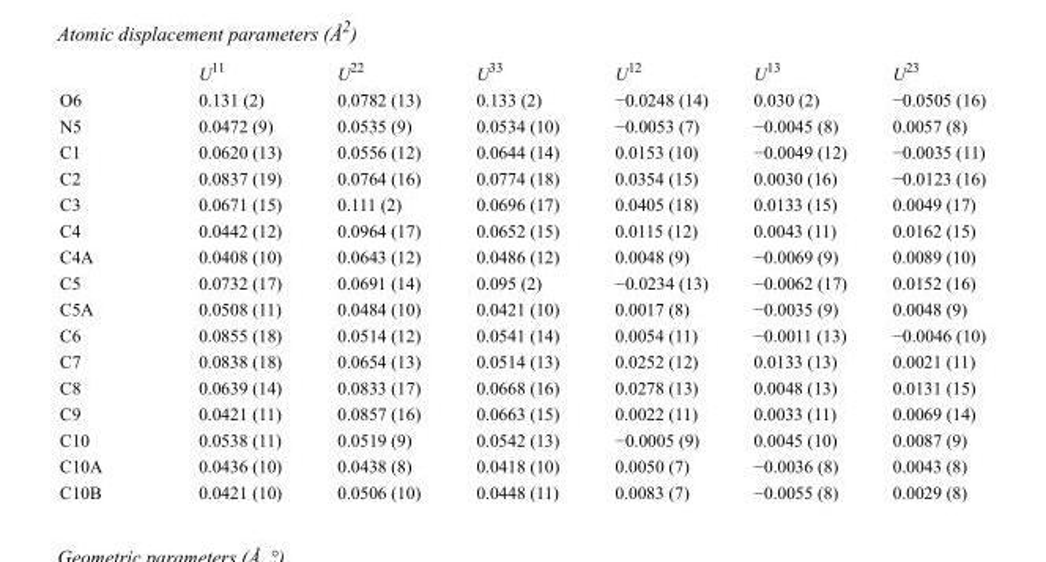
<table><thead><tr><td></td><td>U<sup>11</sup></td><td>U<sup>22</sup></td><td>U<sup>33</sup></td><td>U<sup>12</sup></td><td>U<sup>13</sup></td><td>U<sup>23</sup></td></tr></thead><tbody><tr><td>O6</td><td>0.131 (2)</td><td>0.0782 (13)</td><td>0.133 (2)</td><td>−0.0248 (14)</td><td>0.030 (2)</td><td>−0.0505 (16)</td></tr><tr><td>N5</td><td>0.0472 (9)</td><td>0.0535 (9)</td><td>0.0534 (10)</td><td>−0.0053 (7)</td><td>−0.0045 (8)</td><td>0.0057 (8)</td></tr><tr><td>C1</td><td>0.0620 (13)</td><td>0.0556 (12)</td><td>0.0644 (14)</td><td>0.0153 (10)</td><td>−0.0049 (12)</td><td>−0.0035 (11)</td></tr><tr><td>C2</td><td>0.0837 (19)</td><td>0.0764 (16)</td><td>0.0774 (18)</td><td>0.0354 (15)</td><td>0.0030 (16)</td><td>−0.0123 (16)</td></tr><tr><td>C3</td><td>0.0671 (15)</td><td>0.111 (2)</td><td>0.0696 (17)</td><td>0.0405 (18)</td><td>0.0133 (15)</td><td>0.0049 (17)</td></tr><tr><td>C4</td><td>0.0442 (12)</td><td>0.0964 (17)</td><td>0.0652 (15)</td><td>0.0115 (12)</td><td>0.0043 (11)</td><td>0.0162 (15)</td></tr><tr><td>C4A</td><td>0.0408 (10)</td><td>0.0643 (12)</td><td>0.0486 (12)</td><td>0.0048 (9)</td><td>−0.0069 (9)</td><td>0.0089 (10)</td></tr><tr><td>C5</td><td>0.0732 (17)</td><td>0.0691 (14)</td><td>0.095 (2)</td><td>−0.0234 (13)</td><td>−0.0062 (17)</td><td>0.0152 (16)</td></tr><tr><td>C5A</td><td>0.0508 (11)</td><td>0.0484 (10)</td><td>0.0421 (10)</td><td>0.0017 (8)</td><td>−0.0035 (9)</td><td>0.0048 (9)</td></tr><tr><td>C6</td><td>0.0855 (18)</td><td>0.0514 (12)</td><td>0.0541 (14)</td><td>0.0054 (11)</td><td>−0.0011 (13)</td><td>−0.0046 (10)</td></tr><tr><td>C7</td><td>0.0838 (18)</td><td>0.0654 (13)</td><td>0.0514 (13)</td><td>0.0252 (12)</td><td>0.0133 (13)</td><td>0.0021 (11)</td></tr><tr><td>C8</td><td>0.0639 (14)</td><td>0.0833 (17)</td><td>0.0668 (16)</td><td>0.0278 (13)</td><td>0.0048 (13)</td><td>0.0131 (15)</td></tr><tr><td>C9</td><td>0.0421 (11)</td><td>0.0857 (16)</td><td>0.0663 (15)</td><td>0.0022 (11)</td><td>0.0033 (11)</td><td>0.0069 (14)</td></tr><tr><td>C10</td><td>0.0538 (11)</td><td>0.0519 (9)</td><td>0.0542 (13)</td><td>−0.0005 (9)</td><td>0.0045 (10)</td><td>0.0087 (9)</td></tr><tr><td>C10A</td><td>0.0436 (10)</td><td>0.0438 (8)</td><td>0.0418 (10)</td><td>0.0050 (7)</td><td>−0.0036 (8)</td><td>0.0043 (8)</td></tr><tr><td>C10B</td><td>0.0421 (10)</td><td>0.0506 (10)</td><td>0.0448 (11)</td><td>0.0083 (7)</td><td>−0.0055 (8)</td><td>0.0029 (8)</td></tr></tbody></table>